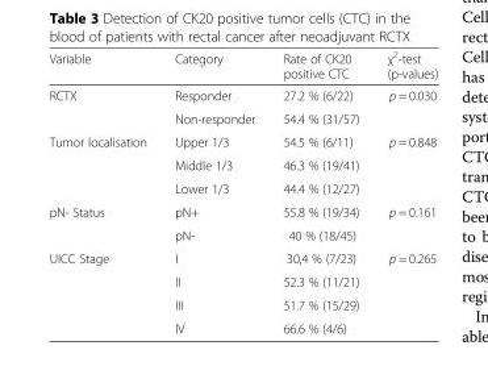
<table><thead><tr><td>Variable</td><td>Category</td><td>Rate of CK20 positive CTC</td><td>χ<sup>2</sup>-test (p-values)</td></tr></thead><tbody><tr><td rowspan="2">RCTX</td><td>Responder</td><td>27.2 % (6/22)</td><td>p = 0.030</td></tr><tr><td>Non-responder</td><td>54.4 % (31/57)</td><td></td></tr><tr><td rowspan="3">Tumor localisation</td><td>Upper 1/3</td><td>54.5 % (6/11)</td><td>p = 0.848</td></tr><tr><td>Middle 1/3</td><td>46.3 % (19/41)</td><td></td></tr><tr><td>Lower 1/3</td><td>44.4 % (12/27)</td><td></td></tr><tr><td rowspan="2">pN- Status</td><td>pN+</td><td>55.8 % (19/34)</td><td>p = 0.161</td></tr><tr><td>pN-</td><td>40 % (18/45)</td><td></td></tr><tr><td rowspan="4">UICC Stage</td><td>I</td><td>30,4 % (7/23)</td><td>p = 0.265</td></tr><tr><td>II</td><td>52.3 % (11/21)</td><td></td></tr><tr><td>III</td><td>51.7 % (15/29)</td><td></td></tr><tr><td>IV</td><td>66.6 % (4/6)</td><td></td></tr></tbody></table>